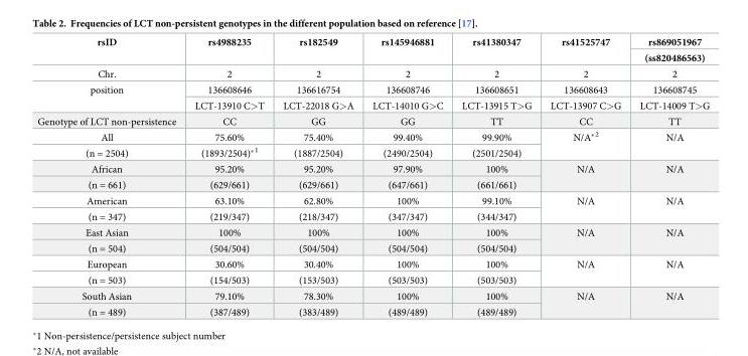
<table><thead><tr><td rowspan="2">rsID</td><td rowspan="2">rs4988235</td><td rowspan="2">rs182549</td><td rowspan="2">rs145946881</td><td rowspan="2">rs41380347</td><td rowspan="2">rs41525747</td><td rowspan="2">rs869051967 (ss820486563)</td></tr><tr></tr></thead><tbody><tr><td>Chr.</td><td>2</td><td>2</td><td>2</td><td>2</td><td>2</td><td>2</td></tr><tr><td rowspan="2">position</td><td>136608646</td><td>136616754</td><td>136608746</td><td>136608651</td><td>136608643</td><td>136608745</td></tr><tr><td>LCT-13910 C&gt;T</td><td>LCT-22018 G&gt;A</td><td>LCT-14010 G&gt;C</td><td>LCT-13915 T&gt;G</td><td>LCT-13907 C&gt;G</td><td>LCT-14009 T&gt;G</td></tr><tr><td>Genotype of LCT non-persistence</td><td>CC</td><td>GG</td><td>GG</td><td>TT</td><td>CC</td><td>TT</td></tr><tr><td>All</td><td>75.60%</td><td>75.40%</td><td>99.40%</td><td>99.90%</td><td rowspan="2">N/A*<sup>2</sup></td><td rowspan="2">N/A</td></tr><tr><td>(n = 2504)</td><td>(1893/2504)*<sup>1</sup></td><td>(1887/2504)</td><td>(2490/2504)</td><td>(2501/2504)</td></tr><tr><td>African</td><td>95.20%</td><td>95.20%</td><td>97.90%</td><td>100%</td><td rowspan="2">N/A</td><td rowspan="2">N/A</td></tr><tr><td>(n = 661)</td><td>(629/661)</td><td>(629/661)</td><td>(647/661)</td><td>(661/661)</td></tr><tr><td>American</td><td>63.10%</td><td>62.80%</td><td>100%</td><td>99.10%</td><td rowspan="2">N/A</td><td rowspan="2">N/A</td></tr><tr><td>(n = 347)</td><td>(219/347)</td><td>(218/347)</td><td>(347/347)</td><td>(344/347)</td></tr><tr><td>East Asian</td><td>100%</td><td>100%</td><td>100%</td><td>100%</td><td rowspan="2">N/A</td><td rowspan="2">N/A</td></tr><tr><td>(n = 504)</td><td>(504/504)</td><td>(504/504)</td><td>(504/504)</td><td>(504/504)</td></tr><tr><td>European</td><td>30.60%</td><td>30.40%</td><td>100%</td><td>100%</td><td rowspan="2">N/A</td><td rowspan="2">N/A</td></tr><tr><td>(n = 503)</td><td>(154/503)</td><td>(153/503)</td><td>(503/503)</td><td>(503/503)</td></tr><tr><td>South Asian</td><td>79.10%</td><td>78.30%</td><td>100%</td><td>100%</td><td rowspan="2">N/A</td><td rowspan="2">N/A</td></tr><tr><td>(n = 489)</td><td>(387/489)</td><td>(383/489)</td><td>(489/489)</td><td>(489/489)</td></tr></tbody></table>